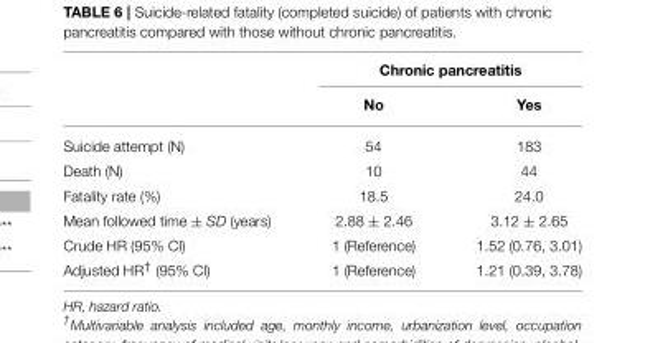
<table><thead><tr><td rowspan="2"></td><td colspan="2">Chronic pancreatitis</td></tr><tr><td>No</td><td>Yes</td></tr></thead><tbody><tr><td>Suicide attempt (N)</td><td>54</td><td>183</td></tr><tr><td>Death (N)</td><td>10</td><td>44</td></tr><tr><td>Fatality rate (%)</td><td>18.5</td><td>24.0</td></tr><tr><td>Mean followed time ± SD (years)</td><td>2.88 ± 2.46</td><td>3.12 ± 2.65</td></tr><tr><td>Crude HR (95% CI)</td><td>1 (Reference)</td><td>1.52 (0.76, 3.01)</td></tr><tr><td>Adjusted HR<sup>†</sup> (95% CI)</td><td>1 (Reference)</td><td>1.21 (0.39, 3.78)</td></tr></tbody></table>